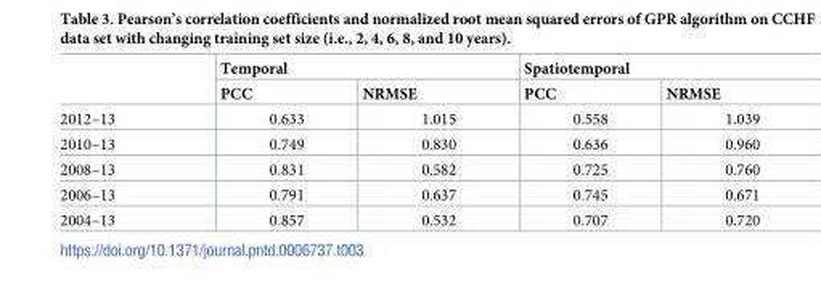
<table><thead><tr><td rowspan="2"></td><td colspan="2">Temporal</td><td colspan="2">Spatiotemporal</td></tr><tr><td>PCC</td><td>NRMSE</td><td>PCC</td><td>NRMSE</td></tr></thead><tbody><tr><td>2012–13</td><td>0.633</td><td>1.015</td><td>0.558</td><td>1.039</td></tr><tr><td>2010–13</td><td>0.749</td><td>0.830</td><td>0.636</td><td>0.960</td></tr><tr><td>2008–13</td><td>0.831</td><td>0.582</td><td>0.725</td><td>0.760</td></tr><tr><td>2006–13</td><td>0.791</td><td>0.637</td><td>0.745</td><td>0.671</td></tr><tr><td>2004–13</td><td>0.857</td><td>0.532</td><td>0.707</td><td>0.720</td></tr></tbody></table>